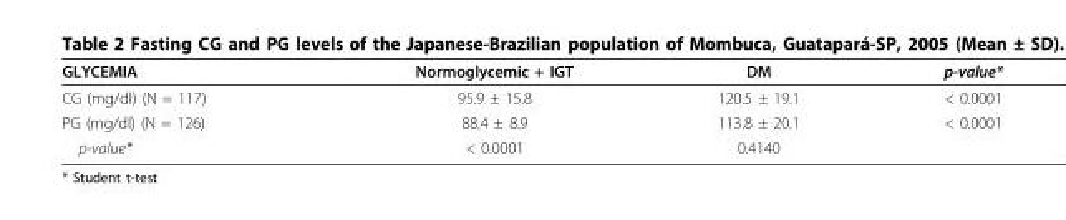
<table><thead><tr><td>GLYCEMIA</td><td>Normoglycemic + IGT</td><td>DM</td><td>p-value*</td></tr></thead><tbody><tr><td>CG (mg/dl) (N = 117)</td><td>95.9 ± 15.8</td><td>120.5 ± 19.1</td><td>&lt; 0.0001</td></tr><tr><td>PG (mg/dl) (N = 126)</td><td>88.4 ± 8.9</td><td>113.8 ± 20.1</td><td>&lt; 0.0001</td></tr><tr><td>p-value*</td><td>&lt; 0.0001</td><td>0.4140</td><td></td></tr></tbody></table>